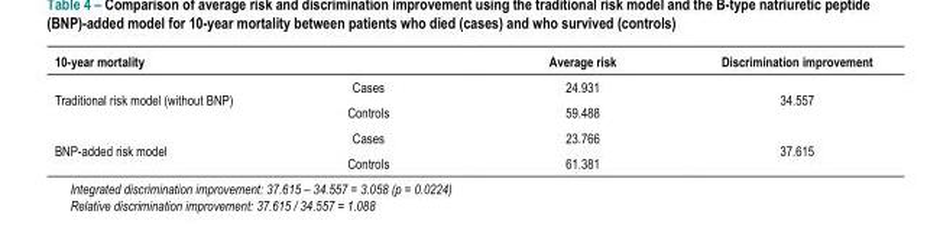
<table><thead><tr><td>10-year mortality</td><td></td><td>Average risk</td><td>Discrimination improvement</td></tr></thead><tbody><tr><td rowspan="2">Traditional risk model (without BNP)</td><td>Cases</td><td>24.931</td><td rowspan="2">34.557</td></tr><tr><td>Controls</td><td>59.488</td></tr><tr><td rowspan="2">BNP-added risk model</td><td>Cases</td><td>23.766</td><td rowspan="2">37.615</td></tr><tr><td>Controls</td><td>61.381</td></tr></tbody></table>